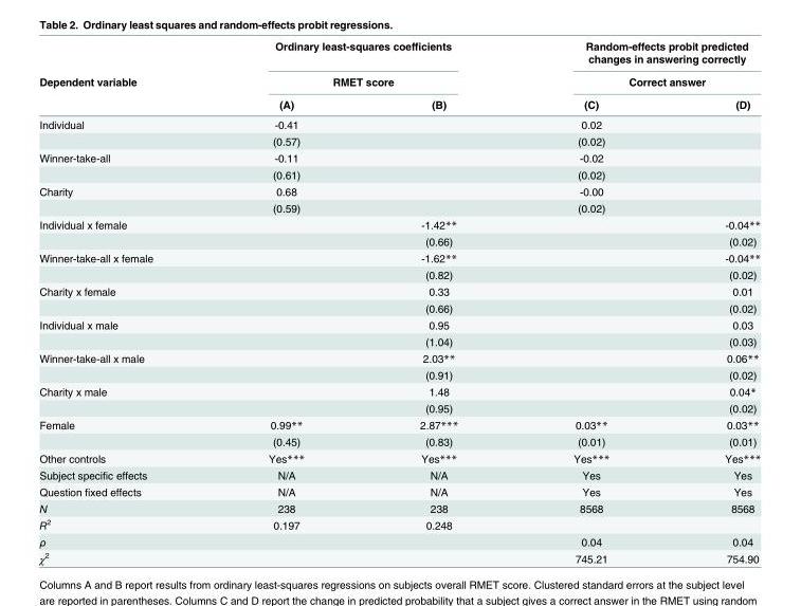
<table><thead><tr><td rowspan="3">Dependent variable</td><td rowspan="2" colspan="2">Ordinary least-squares coefficients RMET score</td><td rowspan="2" colspan="2">Random-effects probit predicted changes in answering correctly Correct answer</td></tr><tr></tr><tr><td>(A)</td><td>(B)</td><td>(C)</td><td>(D)</td></tr></thead><tbody><tr><td rowspan="2">Individual</td><td>-0.41</td><td></td><td>0.02</td><td></td></tr><tr><td>(0.57)</td><td></td><td>(0.02)</td><td></td></tr><tr><td rowspan="2">Winner-take-all</td><td>-0.11</td><td></td><td>-0.02</td><td></td></tr><tr><td>(0.61)</td><td></td><td>(0.02)</td><td></td></tr><tr><td rowspan="2">Charity</td><td>0.68</td><td></td><td>-0.00</td><td></td></tr><tr><td>(0.59)</td><td></td><td>(0.02)</td><td></td></tr><tr><td rowspan="2">Individual x female</td><td></td><td>-1.42**</td><td></td><td>-0.04**</td></tr><tr><td></td><td>(0.66)</td><td></td><td>(0.02)</td></tr><tr><td rowspan="2">Winner-take-all x female</td><td></td><td>-1.62**</td><td></td><td>-0.04**</td></tr><tr><td></td><td>(0.82)</td><td></td><td>(0.02)</td></tr><tr><td rowspan="2">Charity x female</td><td></td><td>0.33</td><td></td><td>0.01</td></tr><tr><td></td><td>(0.66)</td><td></td><td>(0.02)</td></tr><tr><td rowspan="2">Individual x male</td><td></td><td>0.95</td><td></td><td>0.03</td></tr><tr><td></td><td>(1.04)</td><td></td><td>(0.03)</td></tr><tr><td rowspan="2">Winner-take-all x male</td><td></td><td>2.03**</td><td></td><td>0.06**</td></tr><tr><td></td><td>(0.91)</td><td></td><td>(0.02)</td></tr><tr><td rowspan="2">Charity x male</td><td></td><td>1.48</td><td></td><td>0.04*</td></tr><tr><td></td><td>(0.95)</td><td></td><td>(0.02)</td></tr><tr><td rowspan="2">Female</td><td>0.99**</td><td>2.87***</td><td>0.03**</td><td>0.03**</td></tr><tr><td>(0.45)</td><td>(0.83)</td><td>(0.01)</td><td>(0.01)</td></tr><tr><td>Other controls</td><td>Yes***</td><td>Yes***</td><td>Yes***</td><td>Yes***</td></tr><tr><td>Subject specific effects</td><td>N/A</td><td>N/A</td><td>Yes</td><td>Yes</td></tr><tr><td>Question fixed effects</td><td>N/A</td><td>N/A</td><td>Yes</td><td>Yes</td></tr><tr><td>N</td><td>238</td><td>238</td><td>8568</td><td>8568</td></tr><tr><td>R<sup>2</sup></td><td>0.197</td><td>0.248</td><td></td><td></td></tr><tr><td>ρ</td><td></td><td></td><td>0.04</td><td>0.04</td></tr><tr><td>χ<sup>2</sup></td><td></td><td></td><td>745.21</td><td>754.90</td></tr></tbody></table>